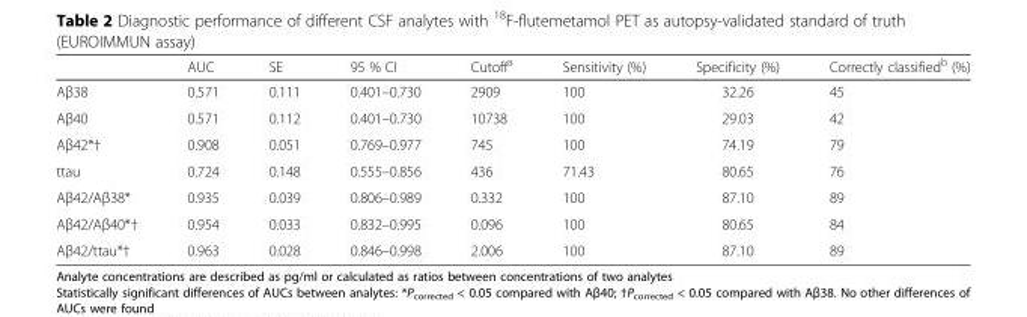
<table><thead><tr><td></td><td>AUC</td><td>SE</td><td>95 % CI</td><td>Cutoff<sup>a</sup></td><td>Sensitivity (%)</td><td>Specificity (%)</td><td>Correctly classified<sup>b</sup> (%)</td></tr></thead><tbody><tr><td>Aβ38</td><td>0.571</td><td>0.111</td><td>0.401–0.730</td><td>2909</td><td>100</td><td>32.26</td><td>45</td></tr><tr><td>Aβ40</td><td>0.571</td><td>0.112</td><td>0.401–0.730</td><td>10738</td><td>100</td><td>29.03</td><td>42</td></tr><tr><td>Aβ42*†</td><td>0.908</td><td>0.051</td><td>0.769–0.977</td><td>745</td><td>100</td><td>74.19</td><td>79</td></tr><tr><td>ttau</td><td>0.724</td><td>0.148</td><td>0.555–0.856</td><td>436</td><td>71.43</td><td>80.65</td><td>76</td></tr><tr><td>Aβ42/Aβ38*</td><td>0.935</td><td>0.039</td><td>0.806–0.989</td><td>0.332</td><td>100</td><td>87.10</td><td>89</td></tr><tr><td>Aβ42/Aβ40*†</td><td>0.954</td><td>0.033</td><td>0.832–0.995</td><td>0.096</td><td>100</td><td>80.65</td><td>84</td></tr><tr><td>Aβ42/ttau*†</td><td>0.963</td><td>0.028</td><td>0.846–0.998</td><td>2.006</td><td>100</td><td>87.10</td><td>89</td></tr></tbody></table>